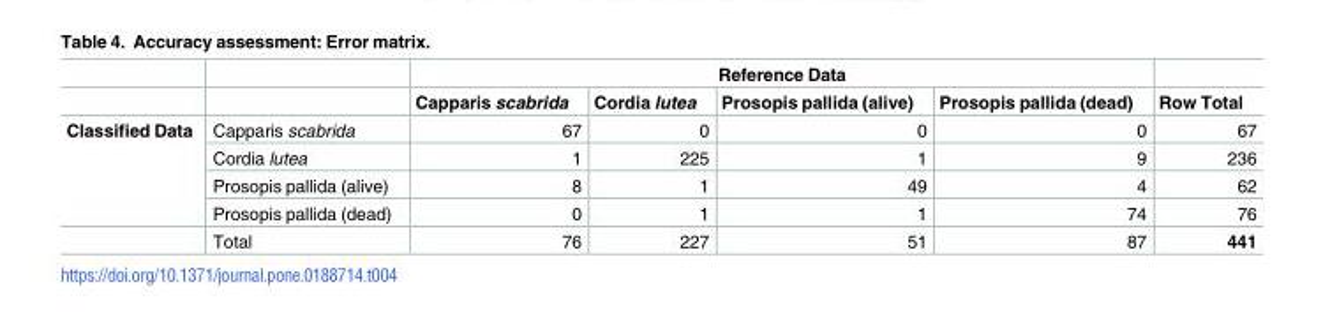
<table><thead><tr><td rowspan="2"></td><td rowspan="2"></td><td colspan="4">Reference Data</td><td rowspan="2">Row Total</td></tr><tr><td>Capparis scabrida</td><td>Cordia lutea</td><td>Prosopis pallida (alive)</td><td>Prosopis pallida (dead)</td></tr></thead><tbody><tr><td rowspan="5">Classified Data</td><td>Capparis scabrida</td><td>67</td><td>0</td><td>0</td><td>0</td><td>67</td></tr><tr><td>Cordia lutea</td><td>1</td><td>225</td><td>1</td><td>9</td><td>236</td></tr><tr><td>Prosopis pallida (alive)</td><td>8</td><td>1</td><td>49</td><td>4</td><td>62</td></tr><tr><td>Prosopis pallida (dead)</td><td>0</td><td>1</td><td>1</td><td>74</td><td>76</td></tr><tr><td>Total</td><td>76</td><td>227</td><td>51</td><td>87</td><td>441</td></tr></tbody></table>